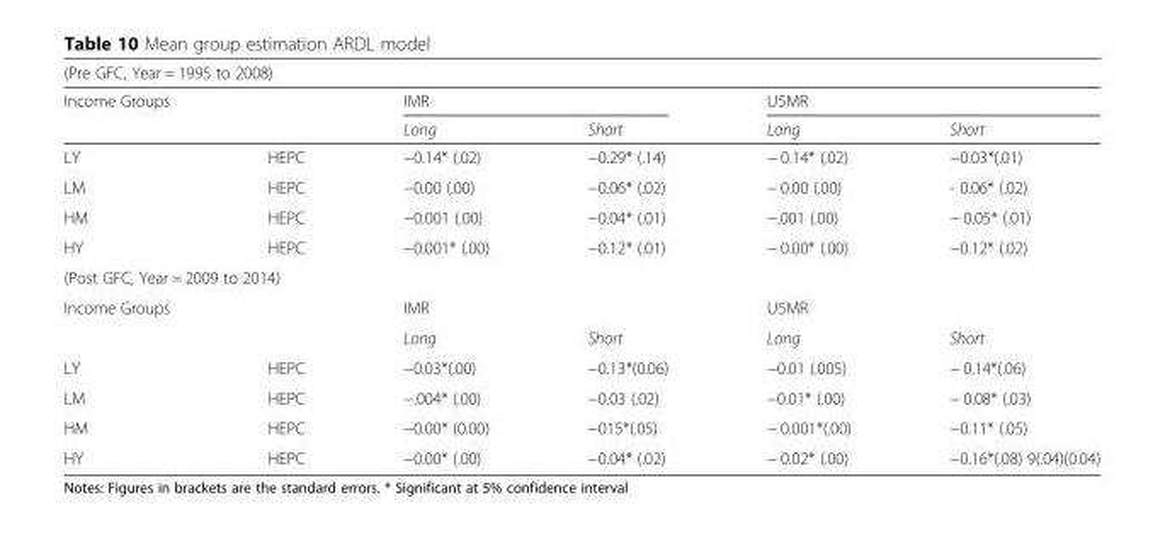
<table><thead><tr><td colspan="6">(Pre GFC, Year = 1995 to 2008)</td></tr><tr><td rowspan="2">Income Groups</td><td rowspan="2"></td><td colspan="2">IMR</td><td colspan="2">U5MR</td></tr><tr><td>Long</td><td>Short</td><td>Long</td><td>Short</td></tr></thead><tbody><tr><td>LY</td><td>HEPC</td><td>−0.14* (.02)</td><td>−0.29* (.14)</td><td>− 0.14* (.02)</td><td>−0.03*(.01)</td></tr><tr><td>LM</td><td>HEPC</td><td>−0.00 (.00)</td><td>−0.06* (.02)</td><td>− 0.00 (.00)</td><td>- 0.06* (.02)</td></tr><tr><td>HM</td><td>HEPC</td><td>−0.001 (.00)</td><td>−0.04* (.01)</td><td>−.001 (.00)</td><td>− 0.05* (.01)</td></tr><tr><td>HY</td><td>HEPC</td><td>−0.001* (.00)</td><td>−0.12* (.01)</td><td>− 0.00* (.00)</td><td>−0.12* (.02)</td></tr><tr><td colspan="6">(Post GFC, Year = 2009 to 2014)</td></tr><tr><td rowspan="2">Income Groups</td><td rowspan="2"></td><td colspan="2">IMR</td><td colspan="2">U5MR</td></tr><tr><td>Long</td><td>Short</td><td>Long</td><td>Short</td></tr><tr><td>LY</td><td>HEPC</td><td>−0.03*(.00)</td><td>−0.13*(0.06)</td><td>−0.01 (.005)</td><td>− 0.14*(.06)</td></tr><tr><td>LM</td><td>HEPC</td><td>−.004* (.00)</td><td>−0.03 (.02)</td><td>−0.01* (.00)</td><td>− 0.08* (.03)</td></tr><tr><td>HM</td><td>HEPC</td><td>−0.00* (0.00)</td><td>−015*(.05)</td><td>− 0.001*(.00)</td><td>−0.11* (.05)</td></tr><tr><td>HY</td><td>HEPC</td><td>−0.00* (.00)</td><td>−0.04* (.02)</td><td>− 0.02* (.00)</td><td>−0.16*(.08) 9(.04)(0.04)</td></tr></tbody></table>